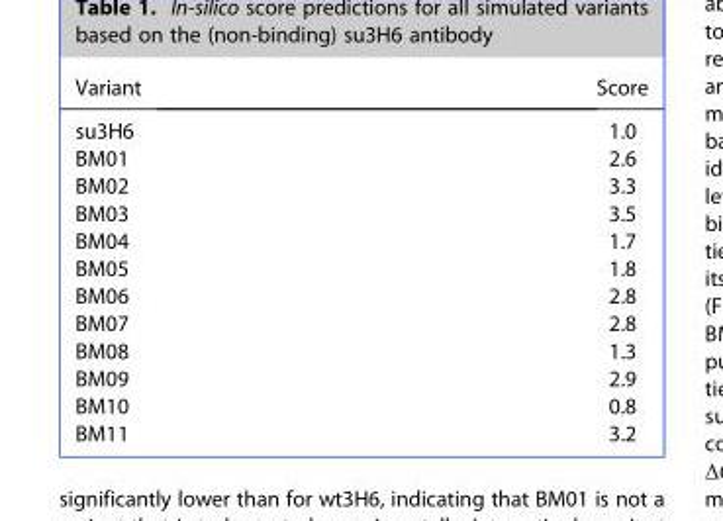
<table><thead><tr><td>Variant</td><td>Score</td></tr></thead><tbody><tr><td>su3H6</td><td>1.0</td></tr><tr><td>BM01</td><td>2.6</td></tr><tr><td>BM02</td><td>3.3</td></tr><tr><td>BM03</td><td>3.5</td></tr><tr><td>BM04</td><td>1.7</td></tr><tr><td>BM05</td><td>1.8</td></tr><tr><td>BM06</td><td>2.8</td></tr><tr><td>BM07</td><td>2.8</td></tr><tr><td>BM08</td><td>1.3</td></tr><tr><td>BM09</td><td>2.9</td></tr><tr><td>BM10</td><td>0.8</td></tr><tr><td>BM11</td><td>3.2</td></tr></tbody></table>